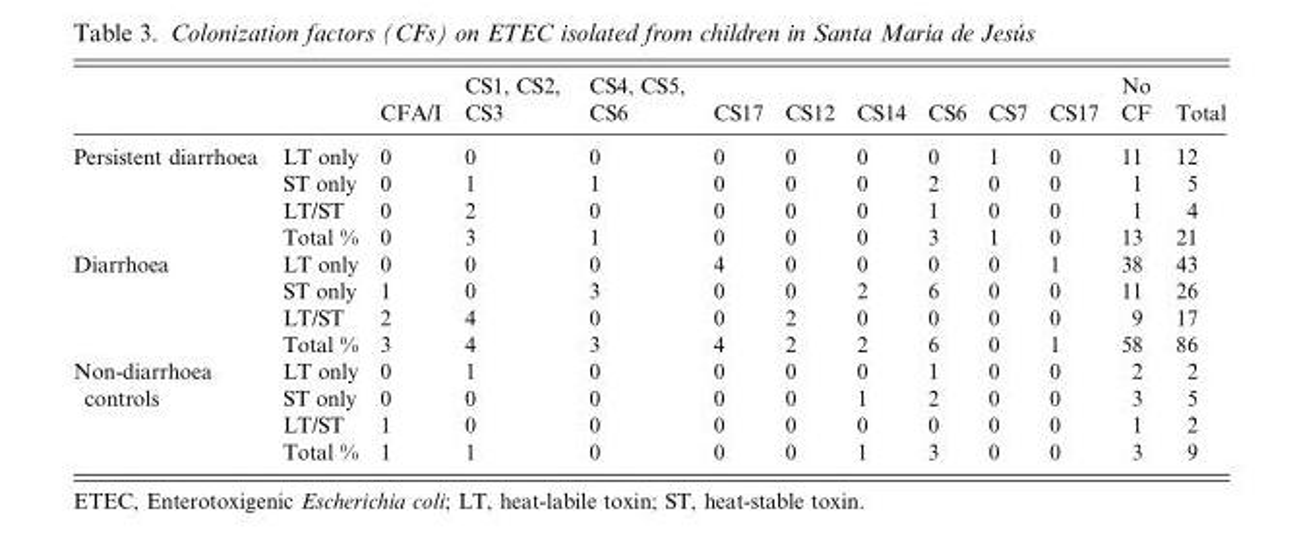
<table><thead><tr><td></td><td></td><td>CFA/I</td><td>CS1, CS2, CS3</td><td>CS4, CS5, CS6</td><td>CS17</td><td>CS12</td><td>CS14</td><td>CS6</td><td>CS7</td><td>CS17</td><td>No CF</td><td>Total</td></tr></thead><tbody><tr><td rowspan="4">Persistent diarrhoea</td><td>LT only</td><td>0</td><td>0</td><td>0</td><td>0</td><td>0</td><td>0</td><td>0</td><td>1</td><td>0</td><td>11</td><td>12</td></tr><tr><td>ST only</td><td>0</td><td>1</td><td>1</td><td>0</td><td>0</td><td>0</td><td>2</td><td>0</td><td>0</td><td>1</td><td>5</td></tr><tr><td>LT/ST</td><td>0</td><td>2</td><td>0</td><td>0</td><td>0</td><td>0</td><td>1</td><td>0</td><td>0</td><td>1</td><td>4</td></tr><tr><td>Total %</td><td>0</td><td>3</td><td>1</td><td>0</td><td>0</td><td>0</td><td>3</td><td>1</td><td>0</td><td>13</td><td>21</td></tr><tr><td rowspan="4">Diarrhoea</td><td>LT only</td><td>0</td><td>0</td><td>0</td><td>4</td><td>0</td><td>0</td><td>0</td><td>0</td><td>1</td><td>38</td><td>43</td></tr><tr><td>ST only</td><td>1</td><td>0</td><td>3</td><td>0</td><td>0</td><td>2</td><td>6</td><td>0</td><td>0</td><td>11</td><td>26</td></tr><tr><td>LT/ST</td><td>2</td><td>4</td><td>0</td><td>0</td><td>2</td><td>0</td><td>0</td><td>0</td><td>0</td><td>9</td><td>17</td></tr><tr><td>Total %</td><td>3</td><td>4</td><td>3</td><td>4</td><td>2</td><td>2</td><td>6</td><td>0</td><td>1</td><td>58</td><td>86</td></tr><tr><td rowspan="4">Non-diarrhoea controls</td><td>LT only</td><td>0</td><td>1</td><td>0</td><td>0</td><td>0</td><td>0</td><td>1</td><td>0</td><td>0</td><td>2</td><td>2</td></tr><tr><td>ST only</td><td>0</td><td>0</td><td>0</td><td>0</td><td>0</td><td>1</td><td>2</td><td>0</td><td>0</td><td>3</td><td>5</td></tr><tr><td>LT/ST</td><td>1</td><td>0</td><td>0</td><td>0</td><td>0</td><td>0</td><td>0</td><td>0</td><td>0</td><td>1</td><td>2</td></tr><tr><td>Total %</td><td>1</td><td>1</td><td>0</td><td>0</td><td>0</td><td>1</td><td>3</td><td>0</td><td>0</td><td>3</td><td>9</td></tr></tbody></table>